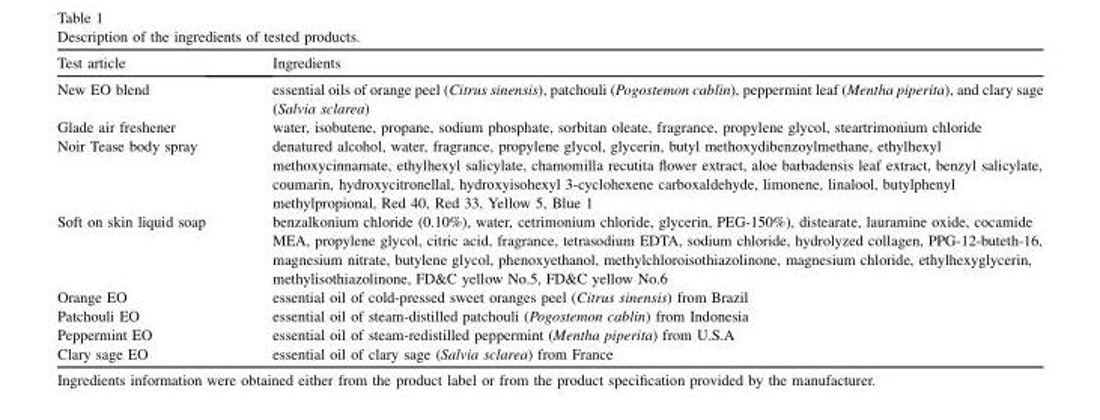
<table><thead><tr><td>Test article</td><td>Ingredients</td></tr></thead><tbody><tr><td>New EO blend</td><td>essential oils of orange peel (Citrus sinensis), patchouli (Pogostemon cablin), peppermint leaf (Mentha piperita), and clary sage (Salvia sclarea)</td></tr><tr><td>Glade air freshener</td><td>water, isobutene, propane, sodium phosphate, sorbitan oleate, fragrance, propylene glycol, steartrimonium chloride</td></tr><tr><td>Noir Tease body spray</td><td>denatured alcohol, water, fragrance, propylene glycol, glycerin, butyl methoxydibenzoylmethane, ethylhexyl methoxycinnamate, ethylhexyl salicylate, chamomilla recutita flower extract, aloe barbadensis leaf extract, benzyl salicylate, coumarin, hydroxycitronellal, hydroxyisohexyl 3-cyclohexene carboxaldehyde, limonene, linalool, butylphenyl methylpropional, Red 40, Red 33, Yellow 5, Blue 1</td></tr><tr><td>Soft on skin liquid soap</td><td>benzalkonium chloride (0.10%), water, cetrimonium chloride, glycerin, PEG-150%), distearate, lauramine oxide, cocamide MEA, propylene glycol, citric acid, fragrance, tetrasodium EDTA, sodium chloride, hydrolyzed collagen, PPG-12-buteth-16, magnesium nitrate, butylene glycol, phenoxyethanol, methylchloroisothiazolinone, magnesium chloride, ethylhexyglycerin, methylisothiazolinone, FD&amp;C yellow No.5, FD&amp;C yellow No.6</td></tr><tr><td>Orange EO</td><td>essential oil of cold-pressed sweet oranges peel (Citrus sinensis) from Brazil</td></tr><tr><td>Patchouli EO</td><td>essential oil of steam-distilled patchouli (Pogostemon cablin) from Indonesia</td></tr><tr><td>Peppermint EO</td><td>essential oil of steam-redistilled peppermint (Mentha piperita) from U.S.A</td></tr><tr><td>Clary sage EO</td><td>essential oil of clary sage (Salvia sclarea) from France</td></tr></tbody></table>